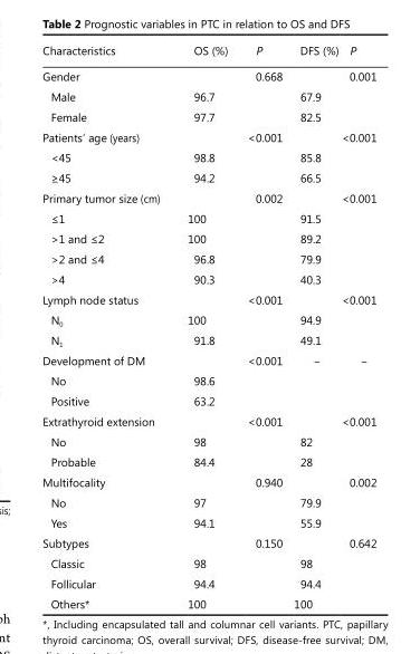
<table><thead><tr><td>Characteristics</td><td>OS (%)</td><td>P</td><td>DFS (%)</td><td>P</td></tr></thead><tbody><tr><td>Gender</td><td></td><td>0.668</td><td></td><td>0.001</td></tr><tr><td>Male</td><td>96.7</td><td></td><td>67.9</td><td></td></tr><tr><td>Female</td><td>97.7</td><td></td><td>82.5</td><td></td></tr><tr><td>Patients’ age (years)</td><td></td><td>&lt;0.001</td><td></td><td>&lt;0.001</td></tr><tr><td>&lt;45</td><td>98.8</td><td></td><td>85.8</td><td></td></tr><tr><td>≥45</td><td>94.2</td><td></td><td>66.5</td><td></td></tr><tr><td>Primary tumor size (cm)</td><td></td><td>0.002</td><td></td><td>&lt;0.001</td></tr><tr><td>≤1</td><td>100</td><td></td><td>91.5</td><td></td></tr><tr><td>&gt;1 and ≤2</td><td>100</td><td></td><td>89.2</td><td></td></tr><tr><td>&gt;2 and ≤4</td><td>96.8</td><td></td><td>79.9</td><td></td></tr><tr><td>&gt;4</td><td>90.3</td><td></td><td>40.3</td><td></td></tr><tr><td>Lymph node status</td><td></td><td>&lt;0.001</td><td></td><td>&lt;0.001</td></tr><tr><td>N<sub>0</sub></td><td>100</td><td></td><td>94.9</td><td></td></tr><tr><td>N<sub>1</sub></td><td>91.8</td><td></td><td>49.1</td><td></td></tr><tr><td>Development of DM</td><td></td><td>&lt;0.001</td><td>–</td><td>–</td></tr><tr><td>No</td><td>98.6</td><td></td><td></td><td></td></tr><tr><td>Positive</td><td>63.2</td><td></td><td></td><td></td></tr><tr><td>Extrathyroid extension</td><td></td><td>&lt;0.001</td><td></td><td>&lt;0.001</td></tr><tr><td>No</td><td>98</td><td></td><td>82</td><td></td></tr><tr><td>Probable</td><td>84.4</td><td></td><td>28</td><td></td></tr><tr><td>Multifocality</td><td></td><td>0.940</td><td></td><td>0.002</td></tr><tr><td>No</td><td>97</td><td></td><td>79.9</td><td></td></tr><tr><td>Yes</td><td>94.1</td><td></td><td>55.9</td><td></td></tr><tr><td>Subtypes</td><td></td><td>0.150</td><td></td><td>0.642</td></tr><tr><td>Classic</td><td>98</td><td></td><td>98</td><td></td></tr><tr><td>Follicular</td><td>94.4</td><td></td><td>94.4</td><td></td></tr><tr><td>Others*</td><td>100</td><td></td><td>100</td><td></td></tr></tbody></table>